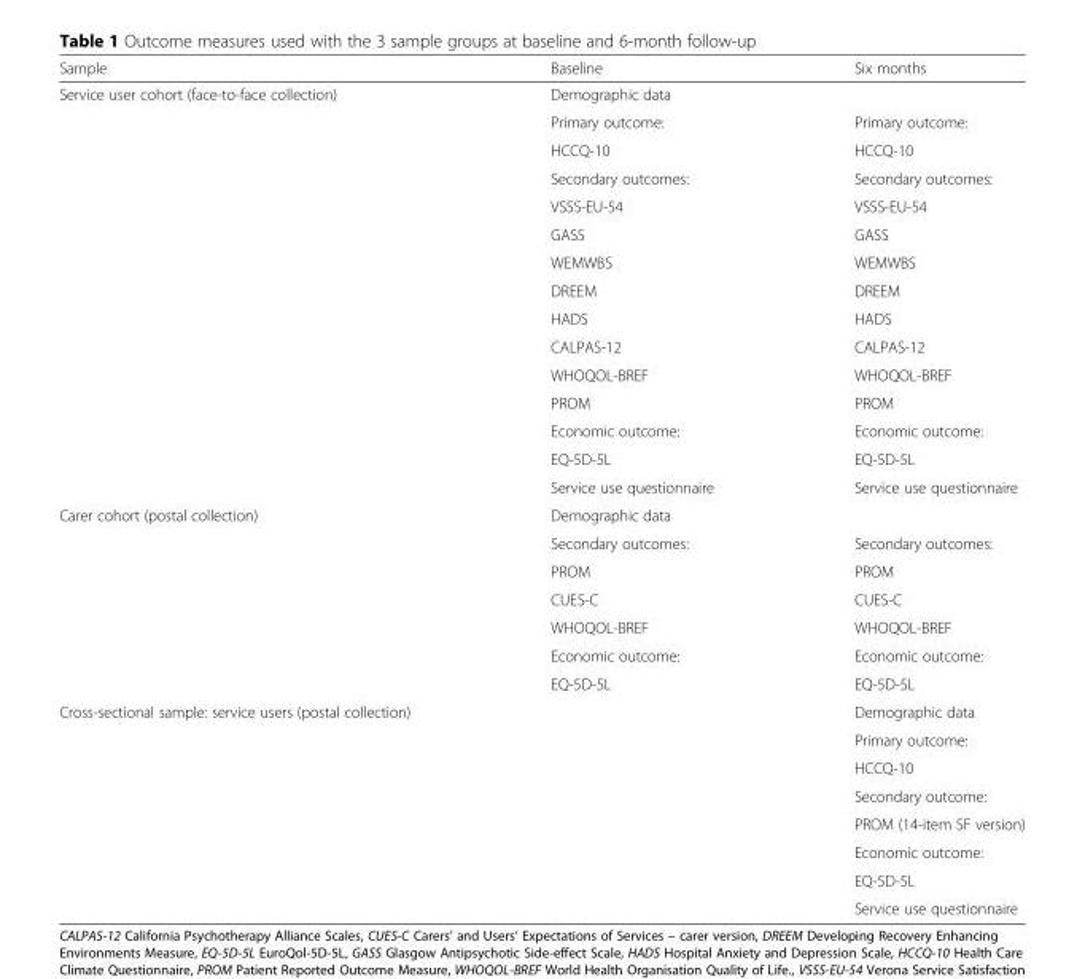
<table><thead><tr><td>Sample</td><td>Baseline</td><td>Six months</td></tr></thead><tbody><tr><td rowspan="15">Service user cohort (face-to-face collection)</td><td>Demographic data</td><td></td></tr><tr><td>Primary outcome:</td><td>Primary outcome:</td></tr><tr><td>HCCQ-10</td><td>HCCQ-10</td></tr><tr><td>Secondary outcomes:</td><td>Secondary outcomes:</td></tr><tr><td>VSSS-EU-54</td><td>VSSS-EU-54</td></tr><tr><td>GASS</td><td>GASS</td></tr><tr><td>WEMWBS</td><td>WEMWBS</td></tr><tr><td>DREEM</td><td>DREEM</td></tr><tr><td>HADS</td><td>HADS</td></tr><tr><td>CALPAS-12</td><td>CALPAS-12</td></tr><tr><td>WHOQOL-BREF</td><td>WHOQOL-BREF</td></tr><tr><td>PROM</td><td>PROM</td></tr><tr><td>Economic outcome:</td><td>Economic outcome:</td></tr><tr><td>EQ-5D-5L</td><td>EQ-5D-5L</td></tr><tr><td>Service use questionnaire</td><td>Service use questionnaire</td></tr><tr><td rowspan="7">Carer cohort (postal collection)</td><td>Demographic data</td><td></td></tr><tr><td>Secondary outcomes:</td><td>Secondary outcomes:</td></tr><tr><td>PROM</td><td>PROM</td></tr><tr><td>CUES-C</td><td>CUES-C</td></tr><tr><td>WHOQOL-BREF</td><td>WHOQOL-BREF</td></tr><tr><td>Economic outcome:</td><td>Economic outcome:</td></tr><tr><td>EQ-5D-5L</td><td>EQ-5D-5L</td></tr><tr><td rowspan="8">Cross-sectional sample: service users (postal collection)</td><td rowspan="8"></td><td>Demographic data</td></tr><tr><td>Primary outcome:</td></tr><tr><td>HCCQ-10</td></tr><tr><td>Secondary outcome:</td></tr><tr><td>PROM (14-item SF version)</td></tr><tr><td>Economic outcome:</td></tr><tr><td>EQ-5D-5L</td></tr><tr><td>Service use questionnaire</td></tr></tbody></table>